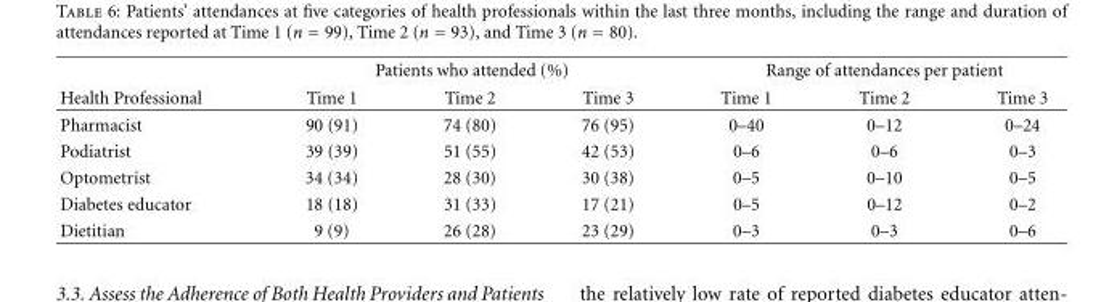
<table><thead><tr><td rowspan="2">Health Professional</td><td colspan="3">Patients who attended (%)</td><td colspan="3">Range of attendances per patient</td></tr><tr><td>Time 1</td><td>Time 2</td><td>Time 3</td><td>Time 1</td><td>Time 2</td><td>Time 3</td></tr></thead><tbody><tr><td>Pharmacist</td><td>90 (91)</td><td>74 (80)</td><td>76 (95)</td><td>0–40</td><td>0–12</td><td>0–24</td></tr><tr><td>Podiatrist</td><td>39 (39)</td><td>51 (55)</td><td>42 (53)</td><td>0–6</td><td>0–6</td><td>0–3</td></tr><tr><td>Optometrist</td><td>34 (34)</td><td>28 (30)</td><td>30 (38)</td><td>0–5</td><td>0–10</td><td>0–5</td></tr><tr><td>Diabetes educator</td><td>18 (18)</td><td>31 (33)</td><td>17 (21)</td><td>0–5</td><td>0–12</td><td>0–2</td></tr><tr><td>Dietitian</td><td>9 (9)</td><td>26 (28)</td><td>23 (29)</td><td>0–3</td><td>0–3</td><td>0–6</td></tr></tbody></table>